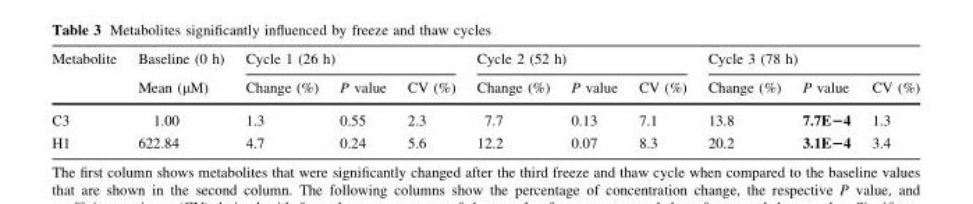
<table><thead><tr><td rowspan="2">Metabolite</td><td rowspan="2">Baseline (0 h) Mean (µM)</td><td colspan="3">Cycle 1 (26 h)</td><td colspan="3">Cycle 2 (52 h)</td><td colspan="3">Cycle 3 (78 h)</td></tr><tr><td>Change (%)</td><td>P value</td><td>CV (%)</td><td>Change (%)</td><td>P value</td><td>CV (%)</td><td>Change (%)</td><td>P value</td><td>CV (%)</td></tr></thead><tbody><tr><td>C3</td><td>1.00</td><td>1.3</td><td>0.55</td><td>2.3</td><td>7.7</td><td>0.13</td><td>7.1</td><td>13.8</td><td>7.7E−4</td><td>1.3</td></tr><tr><td>H1</td><td>622.84</td><td>4.7</td><td>0.24</td><td>5.6</td><td>12.2</td><td>0.07</td><td>8.3</td><td>20.2</td><td>3.1E−4</td><td>3.4</td></tr></tbody></table>